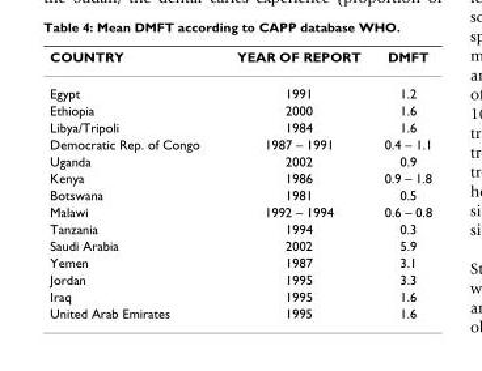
<table><thead><tr><td>COUNTRY</td><td>YEAR OF REPORT</td><td>DMFT</td></tr></thead><tbody><tr><td>Egypt</td><td>1991</td><td>1.2</td></tr><tr><td>Ethiopia</td><td>2000</td><td>1.6</td></tr><tr><td>Libya/Tripoli</td><td>1984</td><td>1.6</td></tr><tr><td>Democratic Rep. of Congo</td><td>1987 – 1991</td><td>0.4 – 1.1</td></tr><tr><td>Uganda</td><td>2002</td><td>0.9</td></tr><tr><td>Kenya</td><td>1986</td><td>0.9 – 1.8</td></tr><tr><td>Botswana</td><td>1981</td><td>0.5</td></tr><tr><td>Malawi</td><td>1992 – 1994</td><td>0.6 – 0.8</td></tr><tr><td>Tanzania</td><td>1994</td><td>0.3</td></tr><tr><td>Saudi Arabia</td><td>2002</td><td>5.9</td></tr><tr><td>Yemen</td><td>1987</td><td>3.1</td></tr><tr><td>Jordan</td><td>1995</td><td>3.3</td></tr><tr><td>Iraq</td><td>1995</td><td>1.6</td></tr><tr><td>United Arab Emirates</td><td>1995</td><td>1.6</td></tr></tbody></table>